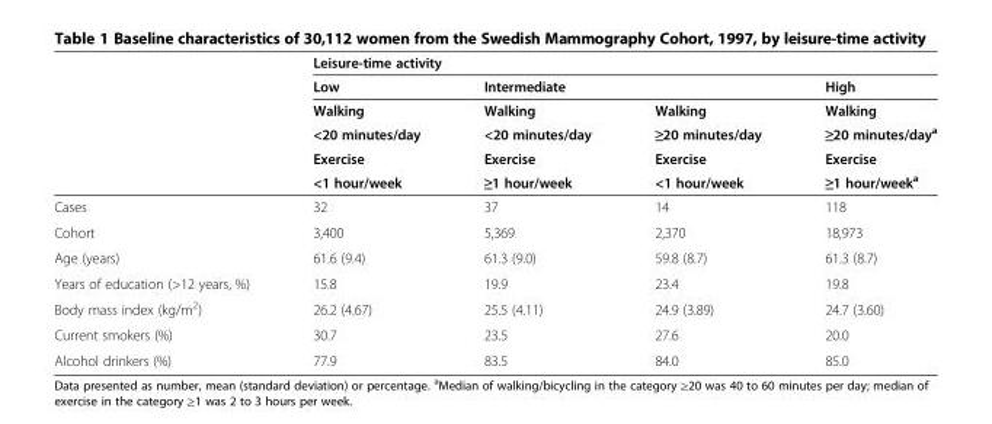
<table><thead><tr><td rowspan="6"></td><td colspan="4">Leisure-time activity</td></tr><tr><td rowspan="5">Low Walking &lt;20 minutes/day Exercise &lt;1 hour/week</td><td colspan="2">Intermediate</td><td rowspan="5">High Walking ≥20 minutes/daya Exercise ≥1 hour/weeka</td></tr><tr><td rowspan="4">Walking &lt;20 minutes/day Exercise ≥1 hour/week</td><td rowspan="4">Walking ≥20 minutes/day Exercise &lt;1 hour/week</td></tr><tr></tr><tr></tr><tr></tr></thead><tbody><tr><td>Cases</td><td>32</td><td>37</td><td>14</td><td>118</td></tr><tr><td>Cohort</td><td>3,400</td><td>5,369</td><td>2,370</td><td>18,973</td></tr><tr><td>Age (years)</td><td>61.6 (9.4)</td><td>61.3 (9.0)</td><td>59.8 (8.7)</td><td>61.3 (8.7)</td></tr><tr><td>Years of education (&gt;12 years, %)</td><td>15.8</td><td>19.9</td><td>23.4</td><td>19.8</td></tr><tr><td>Body mass index (kg/m<sup>2</sup>)</td><td>26.2 (4.67)</td><td>25.5 (4.11)</td><td>24.9 (3.89)</td><td>24.7 (3.60)</td></tr><tr><td>Current smokers (%)</td><td>30.7</td><td>23.5</td><td>27.6</td><td>20.0</td></tr><tr><td>Alcohol drinkers (%)</td><td>77.9</td><td>83.5</td><td>84.0</td><td>85.0</td></tr></tbody></table>